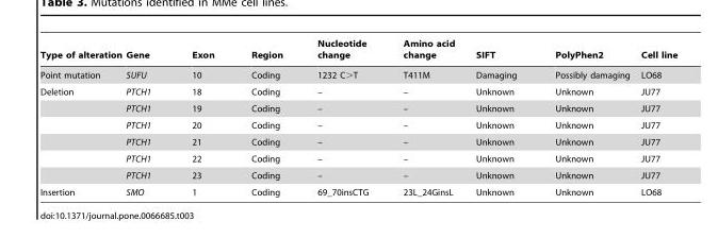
<table><thead><tr><td>Type of alteration</td><td>Gene</td><td>Exon</td><td>Region</td><td>Nucleotide change</td><td>Amino acid change</td><td>SIFT</td><td>PolyPhen2</td><td>Cell line</td></tr></thead><tbody><tr><td>Point mutation</td><td>SUFU</td><td>10</td><td>Coding</td><td>1232 C&gt;T</td><td>T411M</td><td>Damaging</td><td>Possibly damaging</td><td>LO68</td></tr><tr><td rowspan="6">Deletion</td><td>PTCH1</td><td>18</td><td>Coding</td><td>–</td><td>–</td><td>Unknown</td><td>Unknown</td><td>JU77</td></tr><tr><td>PTCH1</td><td>19</td><td>Coding</td><td>–</td><td>–</td><td>Unknown</td><td>Unknown</td><td>JU77</td></tr><tr><td>PTCH1</td><td>20</td><td>Coding</td><td>–</td><td>–</td><td>Unknown</td><td>Unknown</td><td>JU77</td></tr><tr><td>PTCH1</td><td>21</td><td>Coding</td><td>–</td><td>–</td><td>Unknown</td><td>Unknown</td><td>JU77</td></tr><tr><td>PTCH1</td><td>22</td><td>Coding</td><td>–</td><td>–</td><td>Unknown</td><td>Unknown</td><td>JU77</td></tr><tr><td>PTCH1</td><td>23</td><td>Coding</td><td>–</td><td>–</td><td>Unknown</td><td>Unknown</td><td>JU77</td></tr><tr><td>Insertion</td><td>SMO</td><td>1</td><td>Coding</td><td>69_70insCTG</td><td>23L_24GinsL</td><td>Unknown</td><td>Unknown</td><td>LO68</td></tr></tbody></table>